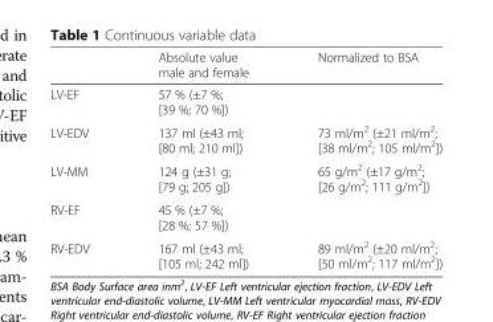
<table><thead><tr><td></td><td>Absolute value male and female</td><td>Normalized to BSA</td></tr></thead><tbody><tr><td>LV-EF</td><td>57 % (±7 %; [39 %; 70 %])</td><td></td></tr><tr><td>LV-EDV</td><td>137 ml (±43 ml; [80 ml; 210 ml])</td><td>73 ml/m<sup>2</sup> (±21 ml/m<sup>2</sup>; [38 ml/m<sup>2</sup>; 105 ml/m<sup>2</sup>])</td></tr><tr><td>LV-MM</td><td>124 g (±31 g; [79 g; 205 g])</td><td>65 g/m<sup>2</sup> (±17 g/m<sup>2</sup>; [26 g/m<sup>2</sup>; 111 g/m<sup>2</sup>])</td></tr><tr><td>RV-EF</td><td>45 % (±7 %; [28 %; 57 %])</td><td></td></tr><tr><td>RV-EDV</td><td>167 ml (±43 ml; [105 ml; 242 ml])</td><td>89 ml/m<sup>2</sup> (±20 ml/m<sup>2</sup>; [50 ml/m<sup>2</sup>; 117 ml/m<sup>2</sup>])</td></tr></tbody></table>